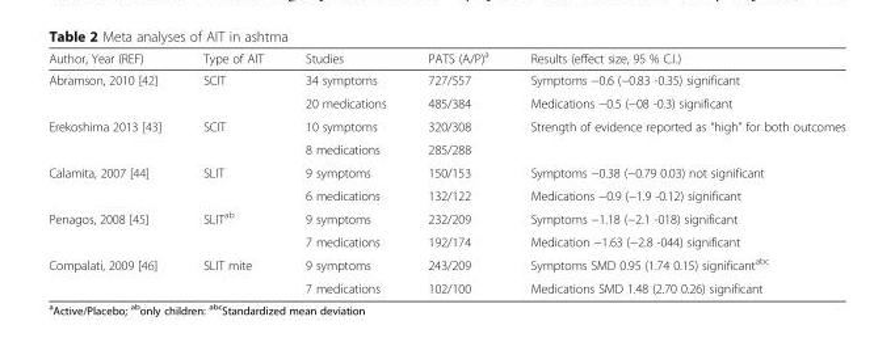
<table><thead><tr><td>Author, Year (REF)</td><td>Type of AIT</td><td>Studies</td><td>PATS (A/P)<sup>a</sup></td><td>Results (effect size, 95 % C.I.)</td></tr></thead><tbody><tr><td rowspan="2">Abramson, 2010 [42]</td><td rowspan="2">SCIT</td><td>34 symptoms</td><td>727/557</td><td>Symptoms −0.6 (−0.83 -0.35) significant</td></tr><tr><td>20 medications</td><td>485/384</td><td>Medications −0.5 (−08 -0.3) significant</td></tr><tr><td rowspan="2">Erekoshima 2013 [43]</td><td rowspan="2">SCIT</td><td>10 symptoms</td><td>320/308</td><td rowspan="2">Strength of evidence reported as “high” for both outcomes</td></tr><tr><td>8 medications</td><td>285/288</td></tr><tr><td rowspan="2">Calamita, 2007 [44]</td><td rowspan="2">SLIT</td><td>9 symptoms</td><td>150/153</td><td>Symptoms −0.38 (−0.79 0.03) not significant</td></tr><tr><td>6 medications</td><td>132/122</td><td>Medications −0.9 (−1.9 -0.12) significant</td></tr><tr><td rowspan="2">Penagos, 2008 [45]</td><td rowspan="2">SLIT<sup>ab</sup></td><td>9 symptoms</td><td>232/209</td><td>Symptoms −1.18 (−2.1 -018) significant</td></tr><tr><td>7 medications</td><td>192/174</td><td>Medication −1.63 (−2.8 -044) significant</td></tr><tr><td rowspan="2">Compalati, 2009 [46]</td><td rowspan="2">SLIT mite</td><td>9 symptoms</td><td>243/209</td><td>Symptoms SMD 0.95 (1.74 0.15) significant<sup>abc</sup></td></tr><tr><td>7 medications</td><td>102/100</td><td>Medications SMD 1.48 (2.70 0.26) significant</td></tr></tbody></table>